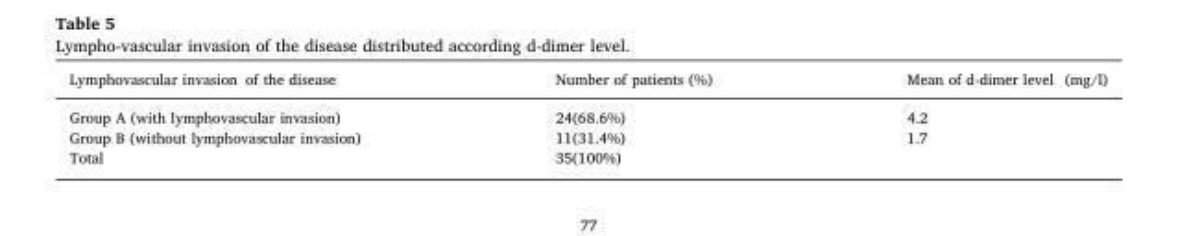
<table><thead><tr><td>Lymphovascular invasion of the disease</td><td>Number of patients (%)</td><td>Mean of d-dimer level (mg/l)</td></tr></thead><tbody><tr><td>Group A (with lymphovascular invasion)</td><td>24(68.6%)</td><td>4.2</td></tr><tr><td>Group B (without lymphovascular invasion)</td><td>11(31.4%)</td><td>1.7</td></tr><tr><td>Total</td><td>35(100%)</td><td></td></tr></tbody></table>